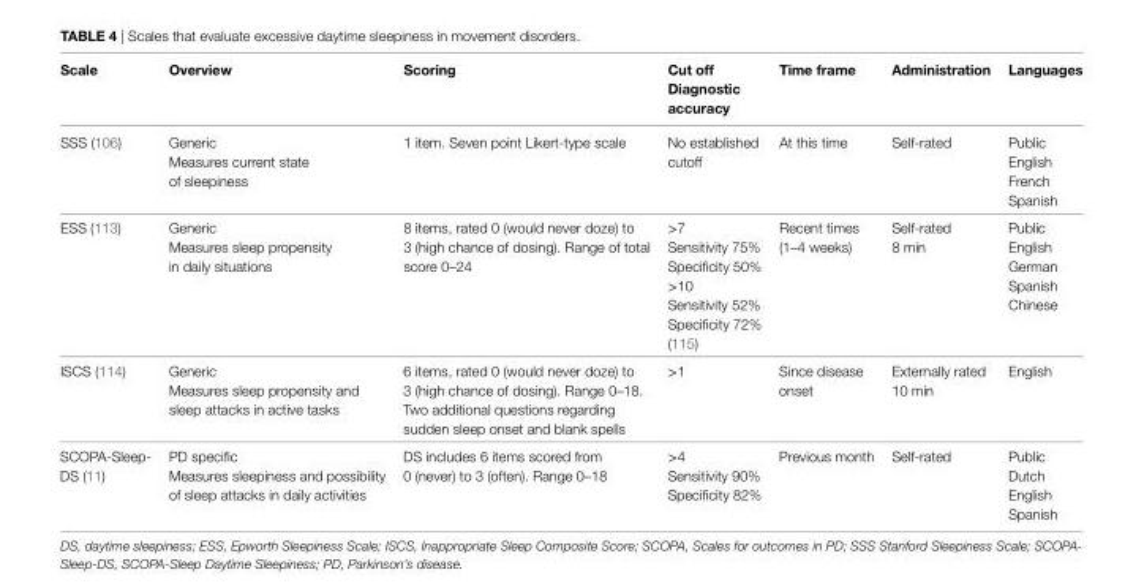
<table><thead><tr><td>Scale</td><td>Overview</td><td>Scoring</td><td>Cut off Diagnostic accuracy</td><td>Time frame</td><td>Administration</td><td>Languages</td></tr></thead><tbody><tr><td>SSS (106)</td><td>Generic Measures current state of sleepiness</td><td>1 item. Seven point Likert-type scale</td><td>No established cutoff</td><td>At this time</td><td>Self-rated</td><td>Public English French Spanish</td></tr><tr><td>ESS (113)</td><td>Generic Measures sleep propensity in daily situations</td><td>8 items, rated 0 (would never doze) to 3 (high chance of dosing). Range of total score 0–24</td><td>&gt;7 Sensitivity 75% Specificity 50% &gt;10 Sensitivity 52% Specificity 72% (115)</td><td>Recent times (1–4 weeks)</td><td>Self-rated 8 min</td><td>Public English German Spanish Chinese</td></tr><tr><td>ISCS (114)</td><td>Generic Measures sleep propensity and sleep attacks in active tasks</td><td>6 items, rated 0 (would never doze) to 3 (high chance of dosing). Range 0–18. Two additional questions regarding sudden sleep onset and blank spells</td><td>&gt;1</td><td>Since disease onset</td><td>Externally rated 10 min</td><td>English</td></tr><tr><td>SCOPA-Sleep- DS (11)</td><td>PD specific Measures sleepiness and possibility of sleep attacks in daily activities</td><td>DS includes 6 items scored from 0 (never) to 3 (often). Range 0–18</td><td>&gt;4 Sensitivity 90% Specificity 82%</td><td>Previous month</td><td>Self-rated</td><td>Public Dutch English Spanish</td></tr></tbody></table>